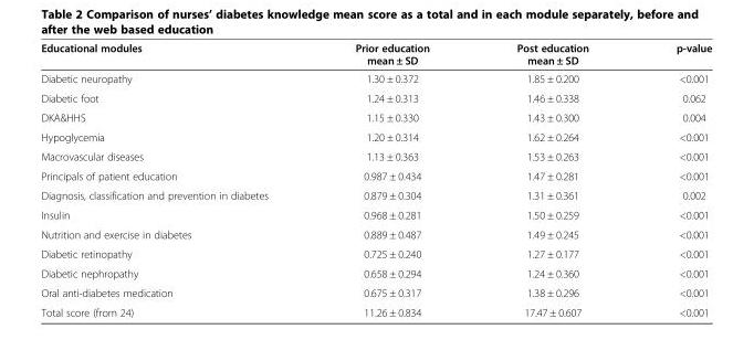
<table><thead><tr><td>Educational modules</td><td>Prior education mean ± SD</td><td>Post education mean ± SD</td><td>p-value</td></tr></thead><tbody><tr><td>Diabetic neuropathy</td><td>1.30 ± 0.372</td><td>1.85 ± 0.200</td><td>&lt;0.001</td></tr><tr><td>Diabetic foot</td><td>1.24 ± 0.313</td><td>1.46 ± 0.338</td><td>0.062</td></tr><tr><td>DKA&amp;HHS</td><td>1.15 ± 0.330</td><td>1.43 ± 0.300</td><td>0.004</td></tr><tr><td>Hypoglycemia</td><td>1.20 ± 0.314</td><td>1.62 ± 0.264</td><td>&lt;0.001</td></tr><tr><td>Macrovascular diseases</td><td>1.13 ± 0.363</td><td>1.53 ± 0.263</td><td>&lt;0.001</td></tr><tr><td>Principals of patient education</td><td>0.987 ± 0.434</td><td>1.47 ± 0.281</td><td>&lt;0.001</td></tr><tr><td>Diagnosis, classification and prevention in diabetes</td><td>0.879 ± 0.304</td><td>1.31 ± 0.361</td><td>0.002</td></tr><tr><td>Insulin</td><td>0.968 ± 0.281</td><td>1.50 ± 0.259</td><td>&lt;0.001</td></tr><tr><td>Nutrition and exercise in diabetes</td><td>0.889 ± 0.487</td><td>1.49 ± 0.245</td><td>&lt;0.001</td></tr><tr><td>Diabetic retinopathy</td><td>0.725 ± 0.240</td><td>1.27 ± 0.177</td><td>&lt;0.001</td></tr><tr><td>Diabetic nephropathy</td><td>0.658 ± 0.294</td><td>1.24 ± 0.360</td><td>&lt;0.001</td></tr><tr><td>Oral anti-diabetes medication</td><td>0.675 ± 0.317</td><td>1.38 ± 0.296</td><td>&lt;0.001</td></tr><tr><td>Total score (from 24)</td><td>11.26 ± 0.834</td><td>17.47 ± 0.607</td><td>&lt;0.001</td></tr></tbody></table>